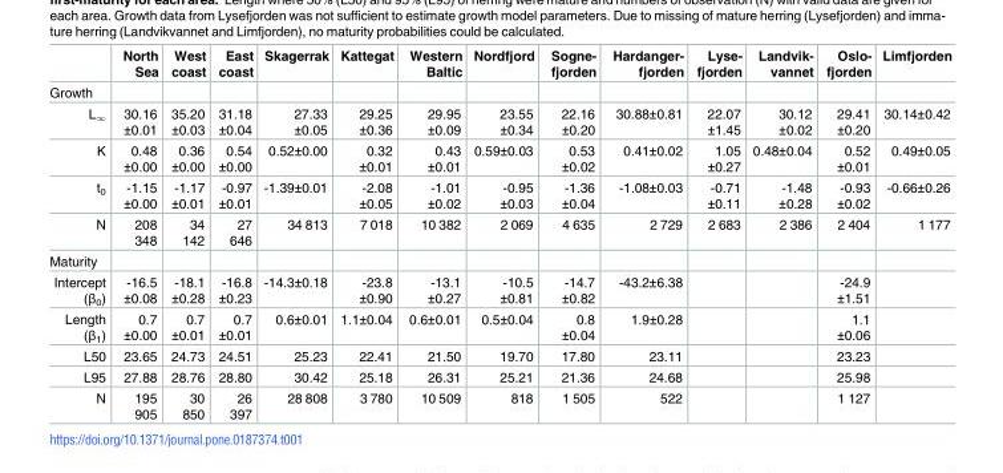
<table><thead><tr><td></td><td>North Sea</td><td>West coast</td><td>East coast</td><td>Skagerrak</td><td>Kattegat</td><td>Western Baltic</td><td>Nordfjord</td><td>Sogne- fjorden</td><td>Hardanger- fjorden</td><td>Lyse- fjorden</td><td>Landvik- vannet</td><td>Oslo- fjorden</td><td>Limfjorden</td></tr></thead><tbody><tr><td colspan="14">Growth</td></tr><tr><td>L<sub>∞</sub></td><td>30.16 ±0.01</td><td>35.20 ±0.03</td><td>31.18 ±0.04</td><td>27.33 ±0.05</td><td>29.25 ±0.36</td><td>29.95 ±0.09</td><td>23.55 ±0.34</td><td>22.16 ±0.20</td><td>30.88±0.81</td><td>22.07 ±1.45</td><td>30.12 ±0.02</td><td>29.41 ±0.20</td><td>30.14±0.42</td></tr><tr><td>K</td><td>0.48 ±0.00</td><td>0.36 ±0.00</td><td>0.54 ±0.00</td><td>0.52±0.00</td><td>0.32 ±0.01</td><td>0.43 ±0.01</td><td>0.59±0.03</td><td>0.53 ±0.02</td><td>0.41±0.02</td><td>1.05 ±0.27</td><td>0.48±0.04</td><td>0.52 ±0.01</td><td>0.49±0.05</td></tr><tr><td>t<sub>0</sub></td><td>-1.15 ±0.00</td><td>-1.17 ±0.01</td><td>-0.97 ±0.01</td><td>-1.39±0.01</td><td>-2.08 ±0.05</td><td>-1.01 ±0.02</td><td>-0.95 ±0.03</td><td>-1.36 ±0.04</td><td>-1.08±0.03</td><td>-0.71 ±0.11</td><td>-1.48 ±0.28</td><td>-0.93 ±0.02</td><td>-0.66±0.26</td></tr><tr><td>N</td><td>208 348</td><td>34 142</td><td>27 646</td><td>34 813</td><td>7 018</td><td>10 382</td><td>2 069</td><td>4 635</td><td>2 729</td><td>2 683</td><td>2 386</td><td>2 404</td><td>1 177</td></tr><tr><td colspan="14">Maturity</td></tr><tr><td>Intercept (β<sub>0</sub>)</td><td>-16.5 ±0.08</td><td>-18.1 ±0.28</td><td>-16.8 ±0.23</td><td>-14.3±0.18</td><td>-23.8 ±0.90</td><td>-13.1 ±0.27</td><td>-10.5 ±0.81</td><td>-14.7 ±0.82</td><td>-43.2±6.38</td><td></td><td></td><td>-24.9 ±1.51</td><td></td></tr><tr><td>Length (β<sub>1</sub>)</td><td>0.7 ±0.00</td><td>0.7 ±0.01</td><td>0.7 ±0.01</td><td>0.6±0.01</td><td>1.1±0.04</td><td>0.6±0.01</td><td>0.5±0.04</td><td>0.8 ±0.04</td><td>1.9±0.28</td><td></td><td></td><td>1.1 ±0.06</td><td></td></tr><tr><td>L50</td><td>23.65</td><td>24.73</td><td>24.51</td><td>25.23</td><td>22.41</td><td>21.50</td><td>19.70</td><td>17.80</td><td>23.11</td><td></td><td></td><td>23.23</td><td></td></tr><tr><td>L95</td><td>27.88</td><td>28.76</td><td>28.80</td><td>30.42</td><td>25.18</td><td>26.31</td><td>25.21</td><td>21.36</td><td>24.68</td><td></td><td></td><td>25.98</td><td></td></tr><tr><td>N</td><td>195 905</td><td>30 850</td><td>26 397</td><td>28 808</td><td>3 780</td><td>10 509</td><td>818</td><td>1 505</td><td>522</td><td></td><td></td><td>1 127</td><td></td></tr></tbody></table>